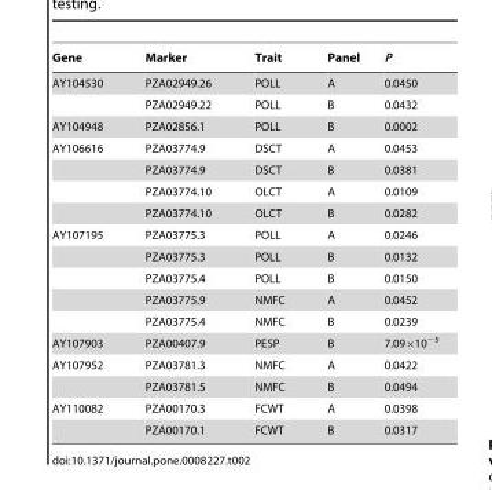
<table><thead><tr><td>Gene</td><td>Marker</td><td>Trait</td><td>Panel</td><td>P</td></tr></thead><tbody><tr><td rowspan="2">AY104530</td><td>PZA02949.26</td><td>POLL</td><td>A</td><td>0.0450</td></tr><tr><td>PZA02949.22</td><td>POLL</td><td>B</td><td>0.0432</td></tr><tr><td>AY104948</td><td>PZA02856.1</td><td>POLL</td><td>B</td><td>0.0002</td></tr><tr><td rowspan="4">AY106616</td><td>PZA03774.9</td><td>DSCT</td><td>A</td><td>0.0453</td></tr><tr><td>PZA03774.9</td><td>DSCT</td><td>B</td><td>0.0381</td></tr><tr><td>PZA03774.10</td><td>OLCT</td><td>A</td><td>0.0109</td></tr><tr><td>PZA03774.10</td><td>OLCT</td><td>B</td><td>0.0282</td></tr><tr><td rowspan="5">AY107195</td><td>PZA03775.3</td><td>POLL</td><td>A</td><td>0.0246</td></tr><tr><td>PZA03775.3</td><td>POLL</td><td>B</td><td>0.0132</td></tr><tr><td>PZA03775.4</td><td>POLL</td><td>B</td><td>0.0150</td></tr><tr><td>PZA03775.9</td><td>NMFC</td><td>A</td><td>0.0452</td></tr><tr><td>PZA03775.4</td><td>NMFC</td><td>B</td><td>0.0239</td></tr><tr><td>AY107903</td><td>PZA00407.9</td><td>PESP</td><td>B</td><td>7.09×10<sup>−5</sup></td></tr><tr><td rowspan="2">AY107952</td><td>PZA03781.3</td><td>NMFC</td><td>A</td><td>0.0422</td></tr><tr><td>PZA03781.5</td><td>NMFC</td><td>B</td><td>0.0494</td></tr><tr><td rowspan="2">AY110082</td><td>PZA00170.3</td><td>FCWT</td><td>A</td><td>0.0398</td></tr><tr><td>PZA00170.1</td><td>FCWT</td><td>B</td><td>0.0317</td></tr></tbody></table>